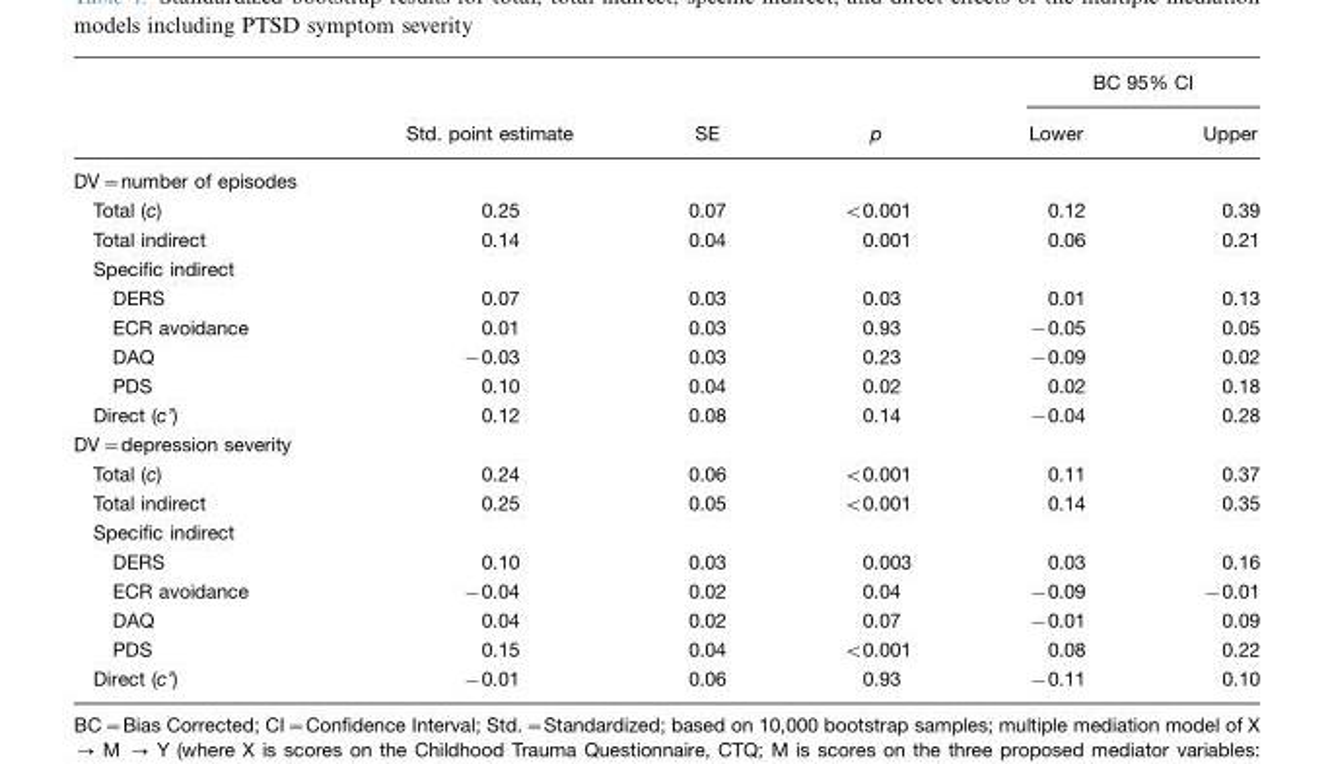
<table><thead><tr><td rowspan="2"></td><td rowspan="2">Std. point estimate</td><td rowspan="2">SE</td><td rowspan="2">p</td><td colspan="2">BC 95% CI</td></tr><tr><td>Lower</td><td>Upper</td></tr></thead><tbody><tr><td colspan="6">DV=number of episodes</td></tr><tr><td>Total (c)</td><td>0.25</td><td>0.07</td><td>&lt;0.001</td><td>0.12</td><td>0.39</td></tr><tr><td>Total indirect</td><td>0.14</td><td>0.04</td><td>0.001</td><td>0.06</td><td>0.21</td></tr><tr><td colspan="6">Specific indirect</td></tr><tr><td>DERS</td><td>0.07</td><td>0.03</td><td>0.03</td><td>0.01</td><td>0.13</td></tr><tr><td>ECR avoidance</td><td>0.01</td><td>0.03</td><td>0.93</td><td>−0.05</td><td>0.05</td></tr><tr><td>DAQ</td><td>−0.03</td><td>0.03</td><td>0.23</td><td>−0.09</td><td>0.02</td></tr><tr><td>PDS</td><td>0.10</td><td>0.04</td><td>0.02</td><td>0.02</td><td>0.18</td></tr><tr><td>Direct (c’)</td><td>0.12</td><td>0.08</td><td>0.14</td><td>−0.04</td><td>0.28</td></tr><tr><td colspan="6">DV=depression severity</td></tr><tr><td>Total (c)</td><td>0.24</td><td>0.06</td><td>&lt;0.001</td><td>0.11</td><td>0.37</td></tr><tr><td>Total indirect</td><td>0.25</td><td>0.05</td><td>&lt;0.001</td><td>0.14</td><td>0.35</td></tr><tr><td colspan="6">Specific indirect</td></tr><tr><td>DERS</td><td>0.10</td><td>0.03</td><td>0.003</td><td>0.03</td><td>0.16</td></tr><tr><td>ECR avoidance</td><td>−0.04</td><td>0.02</td><td>0.04</td><td>−0.09</td><td>−0.01</td></tr><tr><td>DAQ</td><td>0.04</td><td>0.02</td><td>0.07</td><td>−0.01</td><td>0.09</td></tr><tr><td>PDS</td><td>0.15</td><td>0.04</td><td>&lt;0.001</td><td>0.08</td><td>0.22</td></tr><tr><td>Direct (c’)</td><td>−0.01</td><td>0.06</td><td>0.93</td><td>−0.11</td><td>0.10</td></tr></tbody></table>